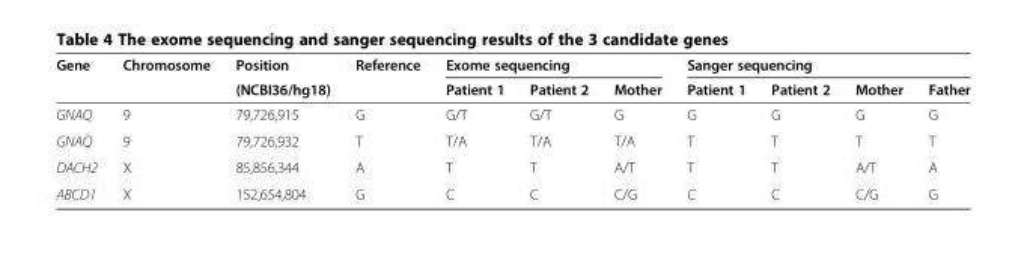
<table><thead><tr><td rowspan="2">Gene</td><td rowspan="2">Chromosome</td><td rowspan="2">Position (NCBI36/hg18)</td><td rowspan="2">Reference</td><td colspan="3">Exome sequencing</td><td colspan="4">Sanger sequencing</td></tr><tr><td>Patient 1</td><td>Patient 2</td><td>Mother</td><td>Patient 1</td><td>Patient 2</td><td>Mother</td><td>Father</td></tr></thead><tbody><tr><td>GNAQ</td><td>9</td><td>79,726,915</td><td>G</td><td>G/T</td><td>G/T</td><td>G</td><td>G</td><td>G</td><td>G</td><td>G</td></tr><tr><td>GNAQ</td><td>9</td><td>79,726,932</td><td>T</td><td>T/A</td><td>T/A</td><td>T/A</td><td>T</td><td>T</td><td>T</td><td>T</td></tr><tr><td>DACH2</td><td>X</td><td>85,856,344</td><td>A</td><td>T</td><td>T</td><td>A/T</td><td>T</td><td>T</td><td>A/T</td><td>A</td></tr><tr><td>ABCD1</td><td>X</td><td>152,654,804</td><td>G</td><td>C</td><td>C</td><td>C/G</td><td>C</td><td>C</td><td>C/G</td><td>G</td></tr></tbody></table>